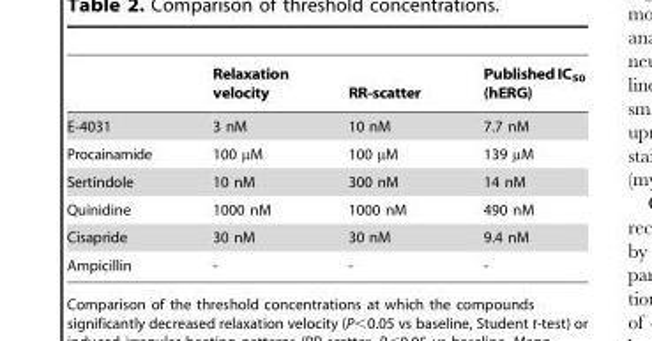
<table><thead><tr><td></td><td>Relaxation velocity</td><td>RR-scatter</td><td>PublishedIC<sub>50</sub> (hERG)</td></tr></thead><tbody><tr><td>E-4031</td><td>3 nM</td><td>10 nM</td><td>7.7 nM</td></tr><tr><td>Procainamide</td><td>100 µM</td><td>100 µM</td><td>139 µM</td></tr><tr><td>Sertindole</td><td>10 nM</td><td>300 nM</td><td>14 nM</td></tr><tr><td>Quinidine</td><td>1000 nM</td><td>1000 nM</td><td>490 nM</td></tr><tr><td>Cisapride</td><td>30 nM</td><td>30 nM</td><td>9.4 nM</td></tr><tr><td>Ampicillin</td><td>-</td><td>-</td><td>-</td></tr></tbody></table>